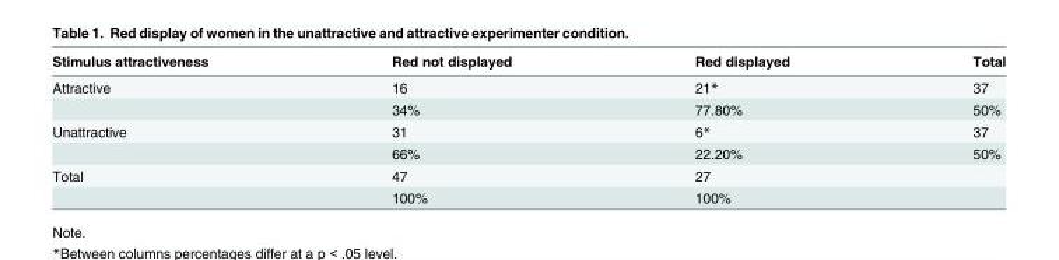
<table><thead><tr><td>Stimulus attractiveness</td><td>Red not displayed</td><td>Red displayed</td><td>Total</td></tr></thead><tbody><tr><td rowspan="2">Attractive</td><td>16</td><td>21*</td><td>37</td></tr><tr><td>34%</td><td>77.80%</td><td>50%</td></tr><tr><td rowspan="2">Unattractive</td><td>31</td><td>6*</td><td>37</td></tr><tr><td>66%</td><td>22.20%</td><td>50%</td></tr><tr><td rowspan="2">Total</td><td>47</td><td>27</td><td></td></tr><tr><td>100%</td><td>100%</td><td></td></tr></tbody></table>